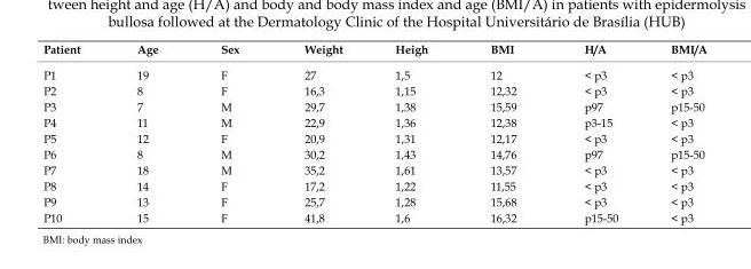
<table><thead><tr><td>Patient</td><td>Age</td><td>Sex</td><td>Weight</td><td>Heigh</td><td>BMI</td><td>H/A</td><td>BMI/A</td></tr></thead><tbody><tr><td>P1</td><td>19</td><td>F</td><td>27</td><td>1,5</td><td>12</td><td>&lt; p3</td><td>&lt; p3</td></tr><tr><td>P2</td><td>8</td><td>F</td><td>16,3</td><td>1,15</td><td>12,32</td><td>&lt; p3</td><td>&lt; p3</td></tr><tr><td>P3</td><td>7</td><td>M</td><td>29,7</td><td>1,38</td><td>15,59</td><td>p97</td><td>p15-50</td></tr><tr><td>P4</td><td>11</td><td>M</td><td>22,9</td><td>1,36</td><td>12,38</td><td>p3-15</td><td>&lt; p3</td></tr><tr><td>P5</td><td>12</td><td>F</td><td>20,9</td><td>1,31</td><td>12,17</td><td>&lt; p3</td><td>&lt; p3</td></tr><tr><td>P6</td><td>8</td><td>M</td><td>30,2</td><td>1,43</td><td>14,76</td><td>p97</td><td>p15-50</td></tr><tr><td>P7</td><td>18</td><td>M</td><td>35,2</td><td>1,61</td><td>13,57</td><td>&lt; p3</td><td>&lt; p3</td></tr><tr><td>P8</td><td>14</td><td>F</td><td>17,2</td><td>1,22</td><td>11,55</td><td>&lt; p3</td><td>&lt; p3</td></tr><tr><td>P9</td><td>13</td><td>F</td><td>25,7</td><td>1,28</td><td>15,68</td><td>&lt; p3</td><td>&lt; p3</td></tr><tr><td>P10</td><td>15</td><td>F</td><td>41,8</td><td>1,6</td><td>16,32</td><td>p15-50</td><td>&lt; p3</td></tr></tbody></table>